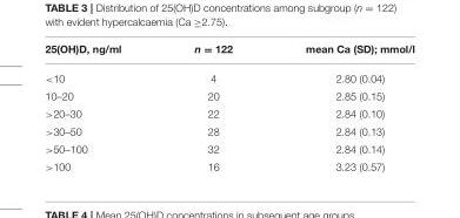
<table><thead><tr><td>25(OH)D, ng/ml</td><td>n = 122</td><td>mean Ca (SD); mmol/l</td></tr></thead><tbody><tr><td>&lt;10</td><td>4</td><td>2.80 (0.04)</td></tr><tr><td>10–20</td><td>20</td><td>2.85 (0.15)</td></tr><tr><td>&gt;20–30</td><td>22</td><td>2.84 (0.10)</td></tr><tr><td>&gt;30–50</td><td>28</td><td>2.84 (0.13)</td></tr><tr><td>&gt;50–100</td><td>32</td><td>2.84 (0.14)</td></tr><tr><td>&gt;100</td><td>16</td><td>3.23 (0.57)</td></tr></tbody></table>